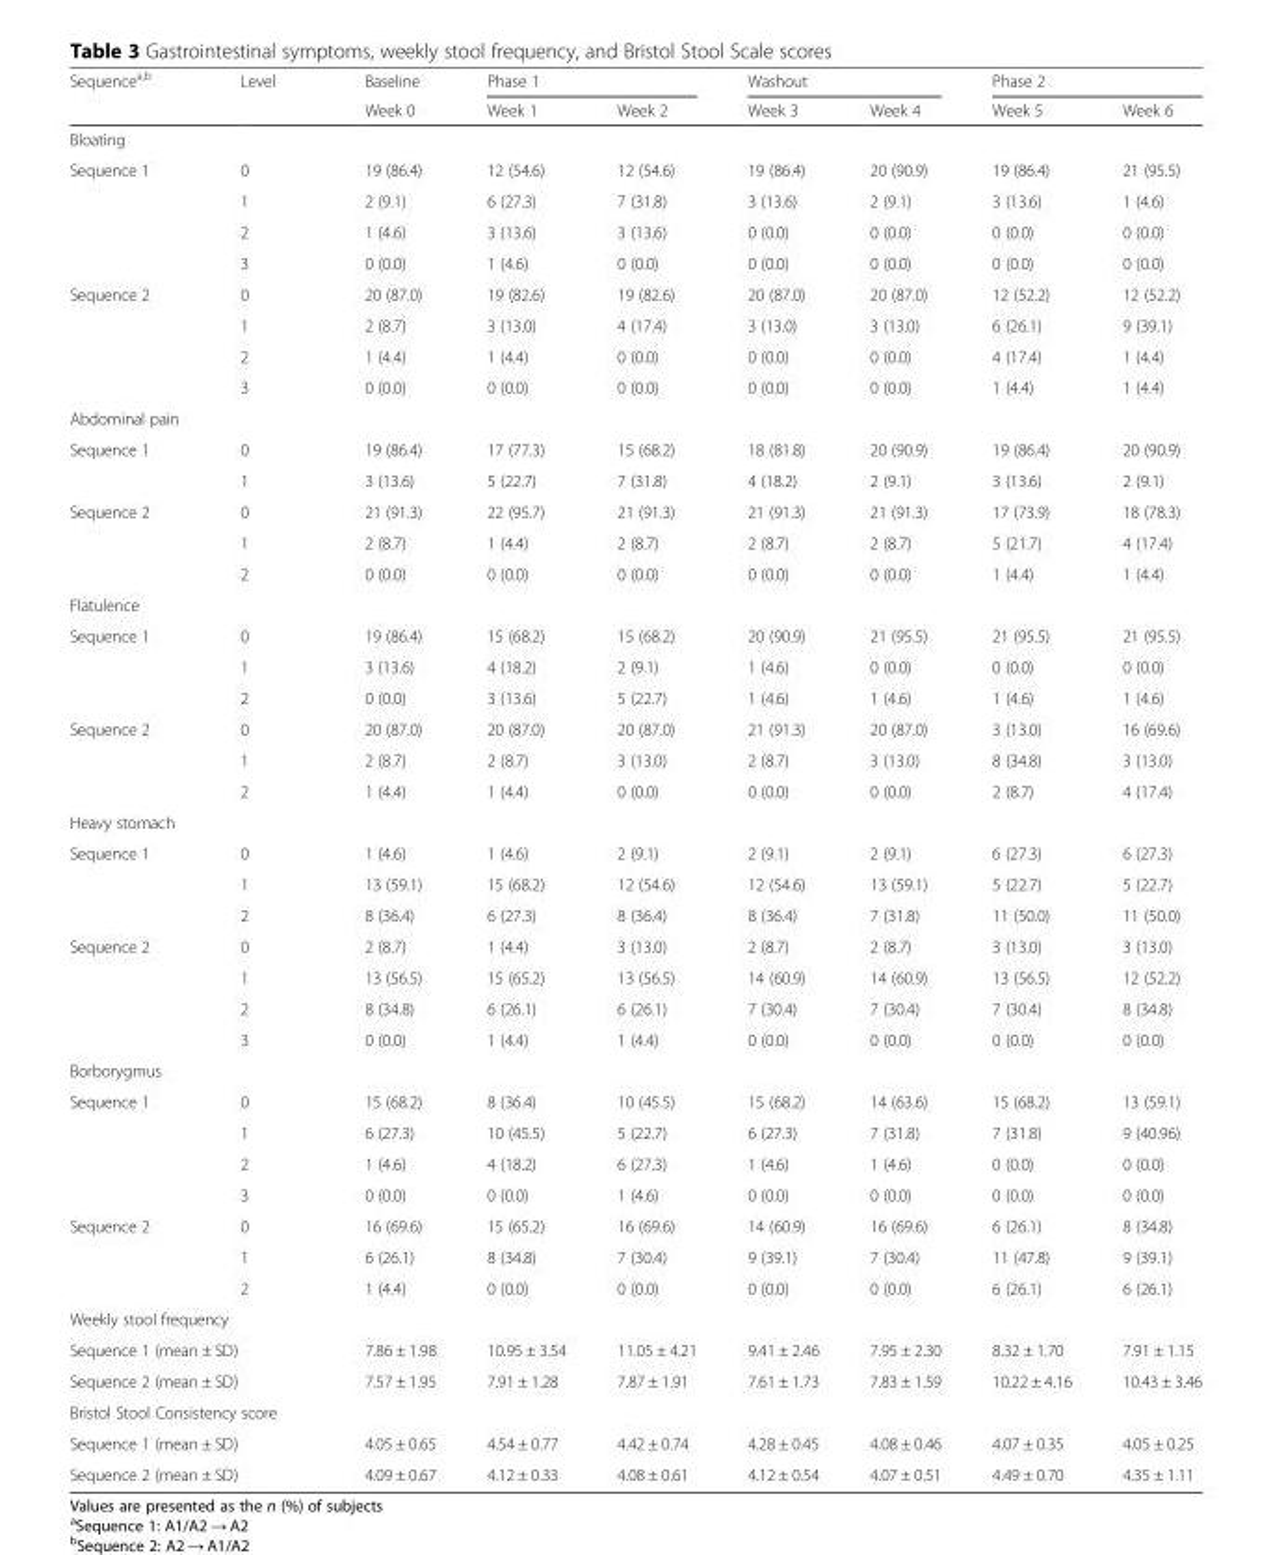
<table><thead><tr><td rowspan="2">Sequence<sup>a,b</sup></td><td rowspan="2">Level</td><td rowspan="2">Baseline Week 0</td><td colspan="2">Phase 1</td><td colspan="2">Washout</td><td colspan="2">Phase 2</td></tr><tr><td>Week 1</td><td>Week 2</td><td>Week 3</td><td>Week 4</td><td>Week 5</td><td>Week 6</td></tr></thead><tbody><tr><td colspan="9">Bloating</td></tr><tr><td rowspan="4">Sequence 1</td><td>0</td><td>19 (86.4)</td><td>12 (54.6)</td><td>12 (54.6)</td><td>19 (86.4)</td><td>20 (90.9)</td><td>19 (86.4)</td><td>21 (95.5)</td></tr><tr><td>1</td><td>2 (9.1)</td><td>6 (27.3)</td><td>7 (31.8)</td><td>3 (13.6)</td><td>2 (9.1)</td><td>3 (13.6)</td><td>1 (4.6)</td></tr><tr><td>2</td><td>1 (4.6)</td><td>3 (13.6)</td><td>3 (13.6)</td><td>0 (0.0)</td><td>0 (0.0)</td><td>0 (0.0)</td><td>0 (0.0)</td></tr><tr><td>3</td><td>0 (0.0)</td><td>1 (4.6)</td><td>0 (0.0)</td><td>0 (0.0)</td><td>0 (0.0)</td><td>0 (0.0)</td><td>0 (0.0)</td></tr><tr><td rowspan="4">Sequence 2</td><td>0</td><td>20 (87.0)</td><td>19 (82.6)</td><td>19 (82.6)</td><td>20 (87.0)</td><td>20 (87.0)</td><td>12 (52.2)</td><td>12 (52.2)</td></tr><tr><td>1</td><td>2 (8.7)</td><td>3 (13.0)</td><td>4 (17.4)</td><td>3 (13.0)</td><td>3 (13.0)</td><td>6 (26.1)</td><td>9 (39.1)</td></tr><tr><td>2</td><td>1 (4.4)</td><td>1 (4.4)</td><td>0 (0.0)</td><td>0 (0.0)</td><td>0 (0.0)</td><td>4 (17.4)</td><td>1 (4.4)</td></tr><tr><td>3</td><td>0 (0.0)</td><td>0 (0.0)</td><td>0 (0.0)</td><td>0 (0.0)</td><td>0 (0.0)</td><td>1 (4.4)</td><td>1 (4.4)</td></tr><tr><td colspan="9">Abdominal pain</td></tr><tr><td rowspan="2">Sequence 1</td><td>0</td><td>19 (86.4)</td><td>17 (77.3)</td><td>15 (68.2)</td><td>18 (81.8)</td><td>20 (90.9)</td><td>19 (86.4)</td><td>20 (90.9)</td></tr><tr><td>1</td><td>3 (13.6)</td><td>5 (22.7)</td><td>7 (31.8)</td><td>4 (18.2)</td><td>2 (9.1)</td><td>3 (13.6)</td><td>2 (9.1)</td></tr><tr><td rowspan="3">Sequence 2</td><td>0</td><td>21 (91.3)</td><td>22 (95.7)</td><td>21 (91.3)</td><td>21 (91.3)</td><td>21 (91.3)</td><td>17 (73.9)</td><td>18 (78.3)</td></tr><tr><td>1</td><td>2 (8.7)</td><td>1 (4.4)</td><td>2 (8.7)</td><td>2 (8.7)</td><td>2 (8.7)</td><td>5 (21.7)</td><td>4 (17.4)</td></tr><tr><td>2</td><td>0 (0.0)</td><td>0 (0.0)</td><td>0 (0.0)</td><td>0 (0.0)</td><td>0 (0.0)</td><td>1 (4.4)</td><td>1 (4.4)</td></tr><tr><td colspan="9">Flatulence</td></tr><tr><td rowspan="3">Sequence 1</td><td>0</td><td>19 (86.4)</td><td>15 (68.2)</td><td>15 (68.2)</td><td>20 (90.9)</td><td>21 (95.5)</td><td>21 (95.5)</td><td>21 (95.5)</td></tr><tr><td>1</td><td>3 (13.6)</td><td>4 (18.2)</td><td>2 (9.1)</td><td>1 (4.6)</td><td>0 (0.0)</td><td>0 (0.0)</td><td>0 (0.0)</td></tr><tr><td>2</td><td>0 (0.0)</td><td>3 (13.6)</td><td>5 (22.7)</td><td>1 (4.6)</td><td>1 (4.6)</td><td>1 (4.6)</td><td>1 (4.6)</td></tr><tr><td rowspan="3">Sequence 2</td><td>0</td><td>20 (87.0)</td><td>20 (87.0)</td><td>20 (87.0)</td><td>21 (91.3)</td><td>20 (87.0)</td><td>3 (13.0)</td><td>16 (69.6)</td></tr><tr><td>1</td><td>2 (8.7)</td><td>2 (8.7)</td><td>3 (13.0)</td><td>2 (8.7)</td><td>3 (13.0)</td><td>8 (34.8)</td><td>3 (13.0)</td></tr><tr><td>2</td><td>1 (4.4)</td><td>1 (4.4)</td><td>0 (0.0)</td><td>0 (0.0)</td><td>0 (0.0)</td><td>2 (8.7)</td><td>4 (17.4)</td></tr><tr><td colspan="9">Heavy stomach</td></tr><tr><td rowspan="3">Sequence 1</td><td>0</td><td>1 (4.6)</td><td>1 (4.6)</td><td>2 (9.1)</td><td>2 (9.1)</td><td>2 (9.1)</td><td>6 (27.3)</td><td>6 (27.3)</td></tr><tr><td>1</td><td>13 (59.1)</td><td>15 (68.2)</td><td>12 (54.6)</td><td>12 (54.6)</td><td>13 (59.1)</td><td>5 (22.7)</td><td>5 (22.7)</td></tr><tr><td>2</td><td>8 (36.4)</td><td>6 (27.3)</td><td>8 (36.4)</td><td>8 (36.4)</td><td>7 (31.8)</td><td>11 (50.0)</td><td>11 (50.0)</td></tr><tr><td rowspan="4">Sequence 2</td><td>0</td><td>2 (8.7)</td><td>1 (4.4)</td><td>3 (13.0)</td><td>2 (8.7)</td><td>2 (8.7)</td><td>3 (13.0)</td><td>3 (13.0)</td></tr><tr><td>1</td><td>13 (56.5)</td><td>15 (65.2)</td><td>13 (56.5)</td><td>14 (60.9)</td><td>14 (60.9)</td><td>13 (56.5)</td><td>12 (52.2)</td></tr><tr><td>2</td><td>8 (34.8)</td><td>6 (26.1)</td><td>6 (26.1)</td><td>7 (30.4)</td><td>7 (30.4)</td><td>7 (30.4)</td><td>8 (34.8)</td></tr><tr><td>3</td><td>0 (0.0)</td><td>1 (4.4)</td><td>1 (4.4)</td><td>0 (0.0)</td><td>0 (0.0)</td><td>0 (0.0)</td><td>0 (0.0)</td></tr><tr><td colspan="9">Borborygmus</td></tr><tr><td rowspan="4">Sequence 1</td><td>0</td><td>15 (68.2)</td><td>8 (36.4)</td><td>10 (45.5)</td><td>15 (68.2)</td><td>14 (63.6)</td><td>15 (68.2)</td><td>13 (59.1)</td></tr><tr><td>1</td><td>6 (27.3)</td><td>10 (45.5)</td><td>5 (22.7)</td><td>6 (27.3)</td><td>7 (31.8)</td><td>7 (31.8)</td><td>9 (40.96)</td></tr><tr><td>2</td><td>1 (4.6)</td><td>4 (18.2)</td><td>6 (27.3)</td><td>1 (4.6)</td><td>1 (4.6)</td><td>0 (0.0)</td><td>0 (0.0)</td></tr><tr><td>3</td><td>0 (0.0)</td><td>0 (0.0)</td><td>1 (4.6)</td><td>0 (0.0)</td><td>0 (0.0)</td><td>0 (0.0)</td><td>0 (0.0)</td></tr><tr><td rowspan="3">Sequence 2</td><td>0</td><td>16 (69.6)</td><td>15 (65.2)</td><td>16 (69.6)</td><td>14 (60.9)</td><td>16 (69.6)</td><td>6 (26.1)</td><td>8 (34.8)</td></tr><tr><td>1</td><td>6 (26.1)</td><td>8 (34.8)</td><td>7 (30.4)</td><td>9 (39.1)</td><td>7 (30.4)</td><td>11 (47.8)</td><td>9 (39.1)</td></tr><tr><td>2</td><td>1 (4.4)</td><td>0 (0.0)</td><td>0 (0.0)</td><td>0 (0.0)</td><td>0 (0.0)</td><td>6 (26.1)</td><td>6 (26.1)</td></tr><tr><td colspan="9">Weekly stool frequency</td></tr><tr><td colspan="2">Sequence 1 (mean ± SD)</td><td>7.86 ± 1.98</td><td>10.95 ± 3.54</td><td>11.05 ± 4.21</td><td>9.41 ± 2.46</td><td>7.95 ± 2.30</td><td>8.32 ± 1.70</td><td>7.91 ± 1.15</td></tr><tr><td colspan="2">Sequence 2 (mean ± SD)</td><td>7.57 ± 1.95</td><td>7.91 ± 1.28</td><td>7.87 ± 1.91</td><td>7.61 ± 1.73</td><td>7.83 ± 1.59</td><td>10.22 ± 4.16</td><td>10.43 ± 3.46</td></tr><tr><td colspan="9">Bristol Stool Consistency score</td></tr><tr><td colspan="2">Sequence 1 (mean ± SD)</td><td>4.05 ± 0.65</td><td>4.54 ± 0.77</td><td>4.42 ± 0.74</td><td>4.28 ± 0.45</td><td>4.08 ± 0.46</td><td>4.07 ± 0.35</td><td>4.05 ± 0.25</td></tr><tr><td colspan="2">Sequence 2 (mean ± SD)</td><td>4.09 ± 0.67</td><td>4.12 ± 0.33</td><td>4.08 ± 0.61</td><td>4.12 ± 0.54</td><td>4.07 ± 0.51</td><td>4.49 ± 0.70</td><td>4.35 ± 1.11</td></tr></tbody></table>